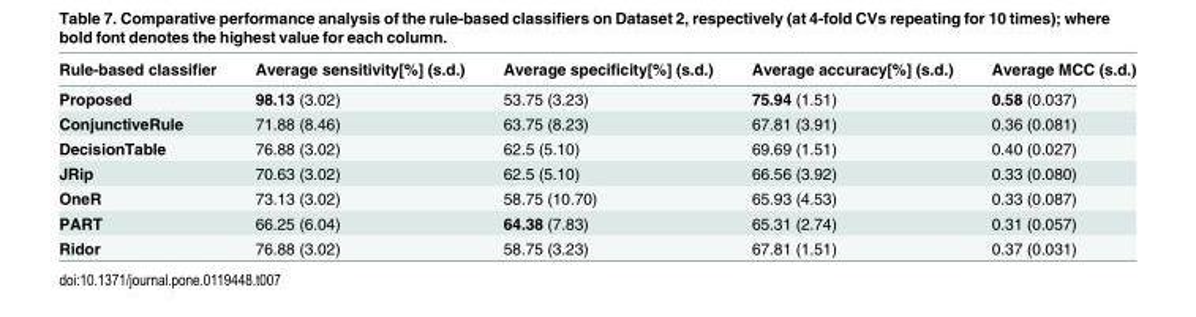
<table><thead><tr><td>Rule-based classifier</td><td>Average sensitivity[%] (s.d.)</td><td>Average specificity[%] (s.d.)</td><td>Average accuracy[%] (s.d.)</td><td>Average MCC (s.d.)</td></tr></thead><tbody><tr><td>Proposed</td><td>98.13 (3.02)</td><td>53.75 (3.23)</td><td>75.94 (1.51)</td><td>0.58 (0.037)</td></tr><tr><td>ConjunctiveRule</td><td>71.88 (8.46)</td><td>63.75 (8.23)</td><td>67.81 (3.91)</td><td>0.36 (0.081)</td></tr><tr><td>DecisionTable</td><td>76.88 (3.02)</td><td>62.5 (5.10)</td><td>69.69 (1.51)</td><td>0.40 (0.027)</td></tr><tr><td>JRip</td><td>70.63 (3.02)</td><td>62.5 (5.10)</td><td>66.56 (3.92)</td><td>0.33 (0.080)</td></tr><tr><td>OneR</td><td>73.13 (3.02)</td><td>58.75 (10.70)</td><td>65.93 (4.53)</td><td>0.33 (0.087)</td></tr><tr><td>PART</td><td>66.25 (6.04)</td><td>64.38 (7.83)</td><td>65.31 (2.74)</td><td>0.31 (0.057)</td></tr><tr><td>Ridor</td><td>76.88 (3.02)</td><td>58.75 (3.23)</td><td>67.81 (1.51)</td><td>0.37 (0.031)</td></tr></tbody></table>